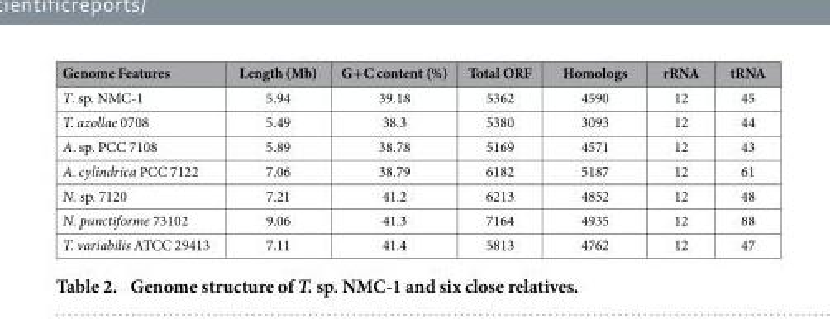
<table><thead><tr><td>Genome Features</td><td>Length (Mb)</td><td>G+C content (%)</td><td>Total ORF</td><td>Homologs</td><td>rRNA</td><td>tRNA</td></tr></thead><tbody><tr><td>T. sp. NMC-1</td><td>5.94</td><td>39.18</td><td>5362</td><td>4590</td><td>12</td><td>45</td></tr><tr><td>T. azollae 0708</td><td>5.49</td><td>38.3</td><td>5380</td><td>3093</td><td>12</td><td>44</td></tr><tr><td>A. sp. PCC 7108</td><td>5.89</td><td>38.78</td><td>5169</td><td>4571</td><td>12</td><td>43</td></tr><tr><td>A. cylindrica PCC 7122</td><td>7.06</td><td>38.79</td><td>6182</td><td>5187</td><td>12</td><td>61</td></tr><tr><td>N. sp. 7120</td><td>7.21</td><td>41.2</td><td>6213</td><td>4852</td><td>12</td><td>48</td></tr><tr><td>N. punctiforme 73102</td><td>9.06</td><td>41.3</td><td>7164</td><td>4935</td><td>12</td><td>88</td></tr><tr><td>T. variabilis ATCC 29413</td><td>7.11</td><td>41.4</td><td>5813</td><td>4762</td><td>12</td><td>47</td></tr></tbody></table>